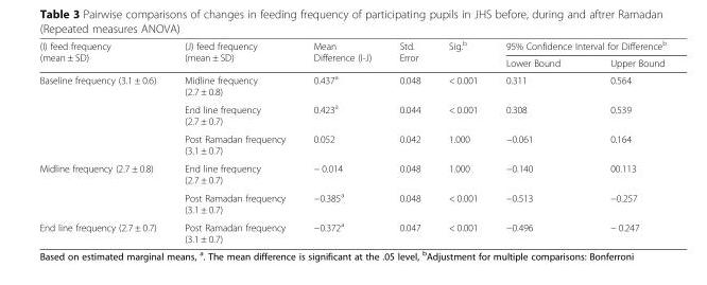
<table><thead><tr><td rowspan="2">(I) feed frequency (mean ± SD)</td><td rowspan="2">(J) feed frequency (mean ± SD)</td><td rowspan="2">Mean Difference (I-J)</td><td rowspan="2">Std. Error</td><td rowspan="2">Sig.<sup>b</sup></td><td colspan="2">95% Confidence Interval for Difference<sup>b</sup></td></tr><tr><td>Lower Bound</td><td>Upper Bound</td></tr></thead><tbody><tr><td rowspan="3">Baseline frequency (3.1 ± 0.6)</td><td>Midline frequency (2.7 ± 0.8)</td><td>0.437<sup>a</sup></td><td>0.048</td><td>&lt; 0.001</td><td>0.311</td><td>0.564</td></tr><tr><td>End line frequency (2.7 ± 0.7)</td><td>0.423<sup>a</sup></td><td>0.044</td><td>&lt; 0.001</td><td>0.308</td><td>0.539</td></tr><tr><td>Post Ramadan frequency (3.1 ± 0.7)</td><td>0.052</td><td>0.042</td><td>1.000</td><td>−0.061</td><td>0.164</td></tr><tr><td rowspan="2">Midline frequency (2.7 ± 0.8)</td><td>End line frequency (2.7 ± 0.7)</td><td>− 0.014</td><td>0.048</td><td>1.000</td><td>−0.140</td><td>00.113</td></tr><tr><td>Post Ramadan frequency (3.1 ± 0.7)</td><td>−0.385<sup>a</sup></td><td>0.048</td><td>&lt; 0.001</td><td>−0.513</td><td>−0.257</td></tr><tr><td>End line frequency (2.7 ± 0.7)</td><td>Post Ramadan frequency (3.1 ± 0.7)</td><td>−0.372<sup>a</sup></td><td>0.047</td><td>&lt; 0.001</td><td>−0.496</td><td>− 0.247</td></tr></tbody></table>